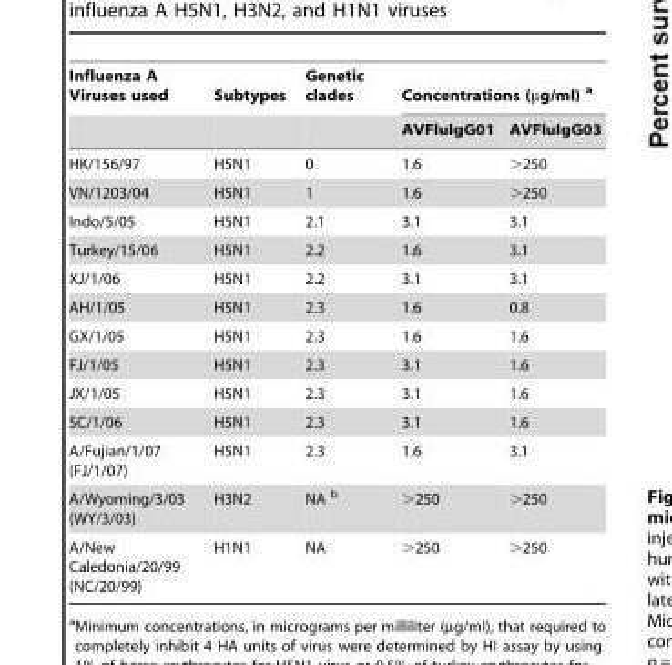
<table><thead><tr><td rowspan="2">Influenza A Viruses used</td><td rowspan="2">Subtypes</td><td rowspan="2">Genetic clades</td><td colspan="2">Concentrations (µg/ml) a</td></tr><tr><td>AVFluIgG01</td><td>AVFluIgG03</td></tr></thead><tbody><tr><td>HK/156/97</td><td>H5N1</td><td>0</td><td>1.6</td><td>&gt;250</td></tr><tr><td>VN/1203/04</td><td>H5N1</td><td>1</td><td>1.6</td><td>&gt;250</td></tr><tr><td>Indo/5/05</td><td>H5N1</td><td>2.1</td><td>3.1</td><td>3.1</td></tr><tr><td>Turkey/15/06</td><td>H5N1</td><td>2.2</td><td>1.6</td><td>3.1</td></tr><tr><td>XJ/1/06</td><td>H5N1</td><td>2.2</td><td>3.1</td><td>3.1</td></tr><tr><td>AH/1/05</td><td>H5N1</td><td>2.3</td><td>1.6</td><td>0.8</td></tr><tr><td>GX/1/05</td><td>H5N1</td><td>2.3</td><td>1.6</td><td>1.6</td></tr><tr><td>FJ/1/05</td><td>H5N1</td><td>2.3</td><td>3.1</td><td>1.6</td></tr><tr><td>JX/1/05</td><td>H5N1</td><td>2.3</td><td>3.1</td><td>1.6</td></tr><tr><td>SC/1/06</td><td>H5N1</td><td>2.3</td><td>3.1</td><td>1.6</td></tr><tr><td>A/Fujian/1/07 (FJ/1/07)</td><td>H5N1</td><td>2.3</td><td>1.6</td><td>3.1</td></tr><tr><td>A/Wyoming/3/03 (WY/3/03)</td><td>H3N2</td><td>NA b</td><td>&gt;250</td><td>&gt;250</td></tr><tr><td>A/New Caledonia/20/99 (NC/20/99)</td><td>H1N1</td><td>NA</td><td>&gt;250</td><td>&gt;250</td></tr></tbody></table>